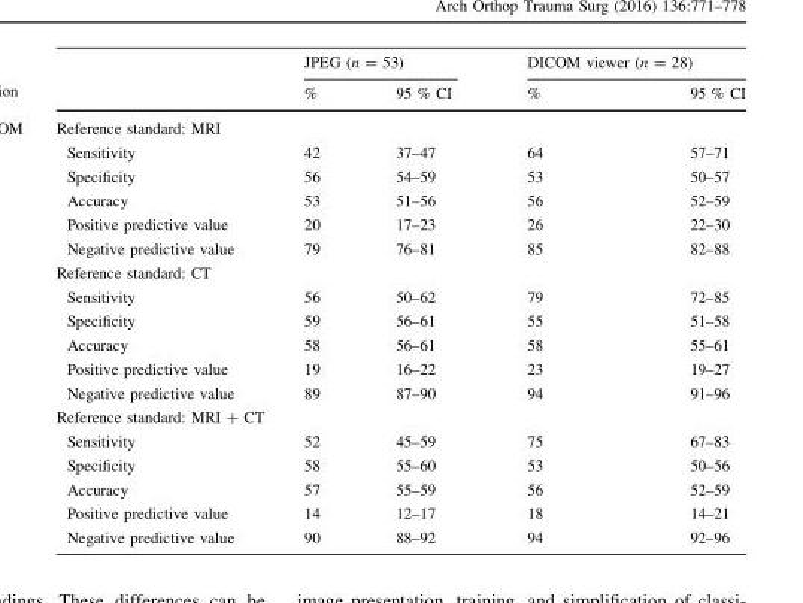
<table><thead><tr><td rowspan="2"></td><td colspan="2">JPEG (n = 53)</td><td colspan="2">DICOM viewer (n = 28)</td></tr><tr><td>%</td><td>95 % CI</td><td>%</td><td>95 % CI</td></tr></thead><tbody><tr><td colspan="5">Reference standard: MRI</td></tr><tr><td>Sensitivity</td><td>42</td><td>37–47</td><td>64</td><td>57–71</td></tr><tr><td>Specificity</td><td>56</td><td>54–59</td><td>53</td><td>50–57</td></tr><tr><td>Accuracy</td><td>53</td><td>51–56</td><td>56</td><td>52–59</td></tr><tr><td>Positive predictive value</td><td>20</td><td>17–23</td><td>26</td><td>22–30</td></tr><tr><td>Negative predictive value</td><td>79</td><td>76–81</td><td>85</td><td>82–88</td></tr><tr><td colspan="5">Reference standard: CT</td></tr><tr><td>Sensitivity</td><td>56</td><td>50–62</td><td>79</td><td>72–85</td></tr><tr><td>Specificity</td><td>59</td><td>56–61</td><td>55</td><td>51–58</td></tr><tr><td>Accuracy</td><td>58</td><td>56–61</td><td>58</td><td>55–61</td></tr><tr><td>Positive predictive value</td><td>19</td><td>16–22</td><td>23</td><td>19–27</td></tr><tr><td>Negative predictive value</td><td>89</td><td>87–90</td><td>94</td><td>91–96</td></tr><tr><td colspan="5">Reference standard: MRI + CT</td></tr><tr><td>Sensitivity</td><td>52</td><td>45–59</td><td>75</td><td>67–83</td></tr><tr><td>Specificity</td><td>58</td><td>55–60</td><td>53</td><td>50–56</td></tr><tr><td>Accuracy</td><td>57</td><td>55–59</td><td>56</td><td>52–59</td></tr><tr><td>Positive predictive value</td><td>14</td><td>12–17</td><td>18</td><td>14–21</td></tr><tr><td>Negative predictive value</td><td>90</td><td>88–92</td><td>94</td><td>92–96</td></tr></tbody></table>